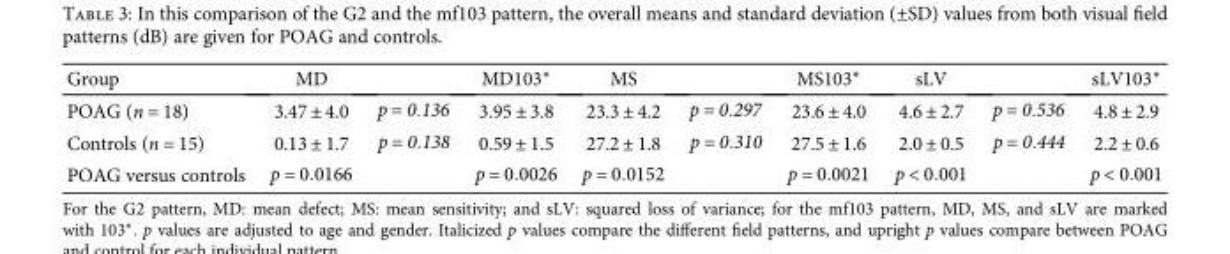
<table><thead><tr><td>Group</td><td>MD</td><td></td><td>MD103∗</td><td>MS</td><td></td><td>MS103∗</td><td>sLV</td><td></td><td>sLV103∗</td></tr></thead><tbody><tr><td>POAG (n = 18)</td><td>3.47 ± 4.0</td><td>p = 0 136</td><td>3.95 ± 3.8</td><td>23.3 ± 4.2</td><td>p = 0 297</td><td>23.6 ± 4.0</td><td>4.6 ± 2.7</td><td>p = 0 536</td><td>4.8 ± 2.9</td></tr><tr><td>Controls (n = 15)</td><td>0.13 ± 1.7</td><td>p = 0 138</td><td>0.59 ± 1.5</td><td>27.2 ± 1.8</td><td>p = 0 310</td><td>27.5 ± 1.6</td><td>2.0 ± 0.5</td><td>p = 0 444</td><td>2.2 ± 0.6</td></tr><tr><td>POAG versus controls</td><td>p = 0 0166</td><td></td><td>p = 0 0026</td><td>p = 0 0152</td><td></td><td>p = 0 0021</td><td>p &lt; 0 001</td><td></td><td>p &lt; 0 001</td></tr></tbody></table>